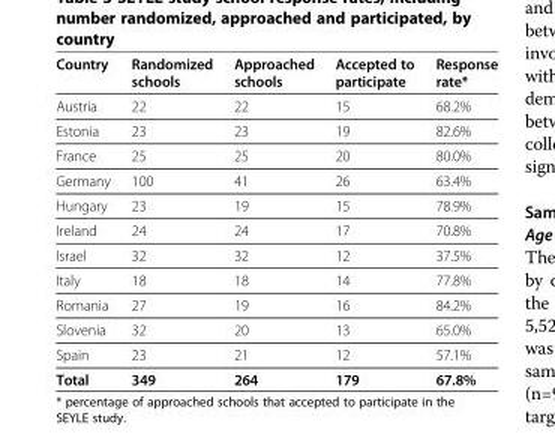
<table><thead><tr><td>Country</td><td>Randomized schools</td><td>Approached schools</td><td>Accepted to participate</td><td>Response rate*</td></tr></thead><tbody><tr><td>Austria</td><td>22</td><td>22</td><td>15</td><td>68.2%</td></tr><tr><td>Estonia</td><td>23</td><td>23</td><td>19</td><td>82.6%</td></tr><tr><td>France</td><td>25</td><td>25</td><td>20</td><td>80.0%</td></tr><tr><td>Germany</td><td>100</td><td>41</td><td>26</td><td>63.4%</td></tr><tr><td>Hungary</td><td>23</td><td>19</td><td>15</td><td>78.9%</td></tr><tr><td>Ireland</td><td>24</td><td>24</td><td>17</td><td>70.8%</td></tr><tr><td>Israel</td><td>32</td><td>32</td><td>12</td><td>37.5%</td></tr><tr><td>Italy</td><td>18</td><td>18</td><td>14</td><td>77.8%</td></tr><tr><td>Romania</td><td>27</td><td>19</td><td>16</td><td>84.2%</td></tr><tr><td>Slovenia</td><td>32</td><td>20</td><td>13</td><td>65.0%</td></tr><tr><td>Spain</td><td>23</td><td>21</td><td>12</td><td>57.1%</td></tr><tr><td>Total</td><td>349</td><td>264</td><td>179</td><td>67.8%</td></tr></tbody></table>